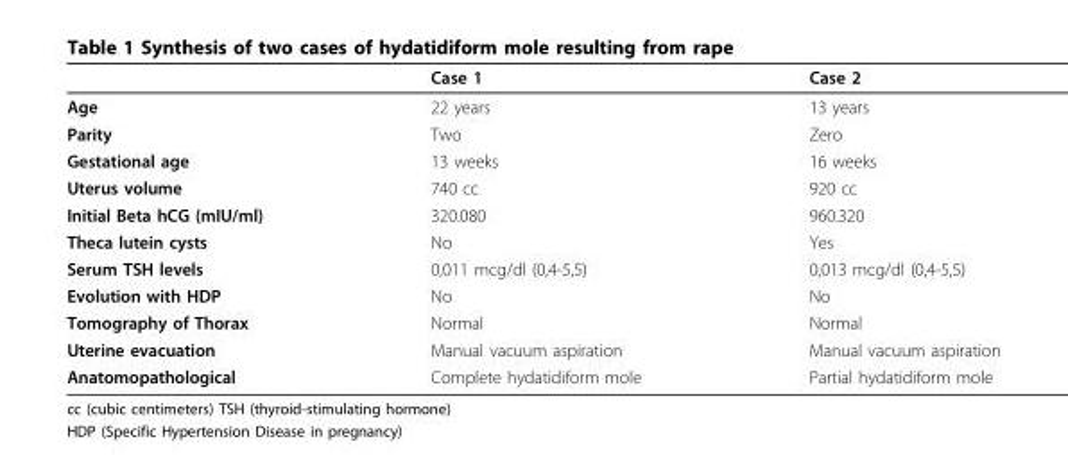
<table><thead><tr><td></td><td>Case 1</td><td>Case 2</td></tr></thead><tbody><tr><td>Age</td><td>22 years</td><td>13 years</td></tr><tr><td>Parity</td><td>Two</td><td>Zero</td></tr><tr><td>Gestational age</td><td>13 weeks</td><td>16 weeks</td></tr><tr><td>Uterus volume</td><td>740 cc</td><td>920 cc</td></tr><tr><td>Initial Beta hCG (mIU/ml)</td><td>320.080</td><td>960.320</td></tr><tr><td>Theca lutein cysts</td><td>No</td><td>Yes</td></tr><tr><td>Serum TSH levels</td><td>0,011 mcg/dl (0,4-5,5)</td><td>0,013 mcg/dl (0,4-5,5)</td></tr><tr><td>Evolution with HDP</td><td>No</td><td>No</td></tr><tr><td>Tomography of Thorax</td><td>Normal</td><td>Normal</td></tr><tr><td>Uterine evacuation</td><td>Manual vacuum aspiration</td><td>Manual vacuum aspiration</td></tr><tr><td>Anatomopathological</td><td>Complete hydatidiform mole</td><td>Partial hydatidiform mole</td></tr></tbody></table>